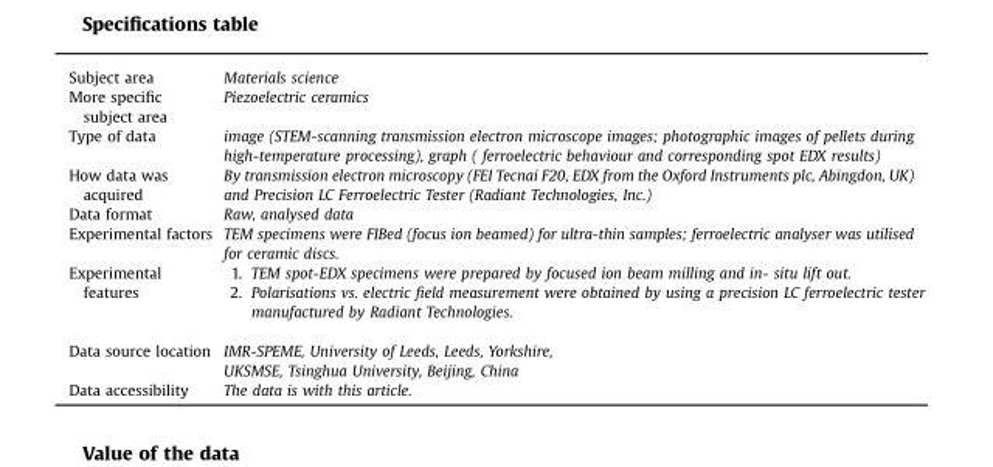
<table><tbody><tr><td>Subject area</td><td>Materials science</td></tr><tr><td>More specific subject area</td><td>Piezoelectric ceramics</td></tr><tr><td>Type of data</td><td>image (STEM-scanning transmission electron microscope images; photographic images of pellets during high-temperature processing), graph ( ferroelectric behaviour and corresponding spot EDX results)</td></tr><tr><td>How data was acquired</td><td>By transmission electron microscopy (FEI Tecnai F20, EDX from the Oxford Instruments plc, Abingdon, UK) and Precision LC Ferroelectric Tester (Radiant Technologies, Inc.)</td></tr><tr><td>Data format</td><td>Raw, analysed data</td></tr><tr><td>Experimental factors</td><td>TEM specimens were FIBed (focus ion beamed) for ultra-thin samples; ferroelectric analyser was utilised for ceramic discs.</td></tr><tr><td>Experimental features</td><td>1. TEM spot-EDX specimens were prepared by focused ion beam milling and in- situ lift out. 2. Polarisations vs. electric field measurement were obtained by using a precision LC ferroelectric tester manufactured by Radiant Technologies.</td></tr><tr><td>Data source location</td><td>IMR-SPEME, University of Leeds, Leeds, Yorkshire, UKSMSE, Tsinghua University, Beijing, China</td></tr><tr><td>Data accessibility</td><td>The data is with this article.</td></tr></tbody></table>